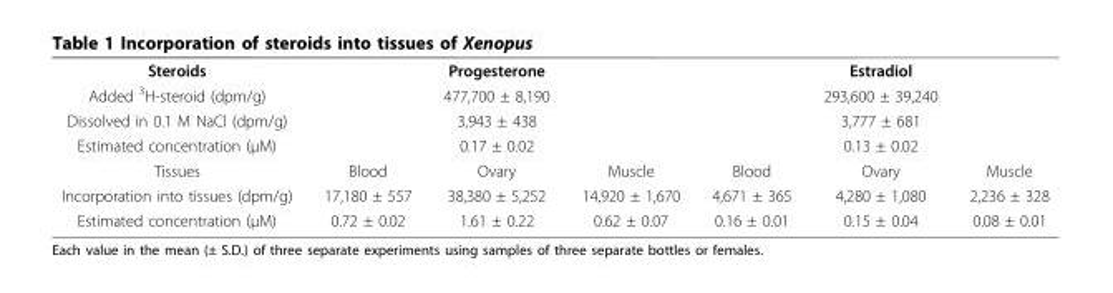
<table><tbody><tr><td>Steroids</td><td></td><td>Progesterone</td><td></td><td></td><td>Estradiol</td><td></td></tr><tr><td>Added <sup>3</sup>H-steroid (dpm/g)</td><td></td><td>477,700 ± 8,190</td><td></td><td></td><td>293,600 ± 39,240</td><td></td></tr><tr><td>Dissolved in 0.1 M NaCl (dpm/g)</td><td></td><td>3,943 ± 438</td><td></td><td></td><td>3,777 ± 681</td><td></td></tr><tr><td>Estimated concentration (μM)</td><td></td><td>0.17 ± 0.02</td><td></td><td></td><td>0.13 ± 0.02</td><td></td></tr><tr><td>Tissues</td><td>Blood</td><td>Ovary</td><td>Muscle</td><td>Blood</td><td>Ovary</td><td>Muscle</td></tr><tr><td>Incorporation into tissues (dpm/g)</td><td>17,180 ± 557</td><td>38,380 ± 5,252</td><td>14,920 ± 1,670</td><td>4,671 ± 365</td><td>4,280 ± 1,080</td><td>2,236 ± 328</td></tr><tr><td>Estimated concentration (μM)</td><td>0.72 ± 0.02</td><td>1.61 ± 0.22</td><td>0.62 ± 0.07</td><td>0.16 ± 0.01</td><td>0.15 ± 0.04</td><td>0.08 ± 0.01</td></tr></tbody></table>